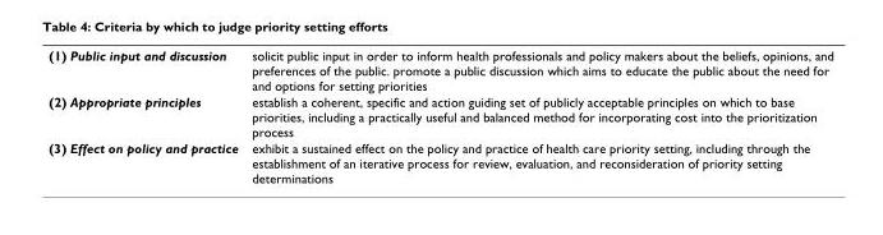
<table><tbody><tr><td>(1) Public input and discussion</td><td>solicit public input in order to inform health professionals and policy makers about the beliefs, opinions, and preferences of the public. promote a public discussion which aims to educate the public about the need for and options for setting priorities</td></tr><tr><td>(2) Appropriate principles</td><td>establish a coherent, specific and action guiding set of publicly acceptable principles on which to base priorities, including a practically useful and balanced method for incorporating cost into the prioritization process</td></tr><tr><td>(3) Effect on policy and practice</td><td>exhibit a sustained effect on the policy and practice of health care priority setting, including through the establishment of an iterative process for review, evaluation, and reconsideration of priority setting determinations</td></tr></tbody></table>